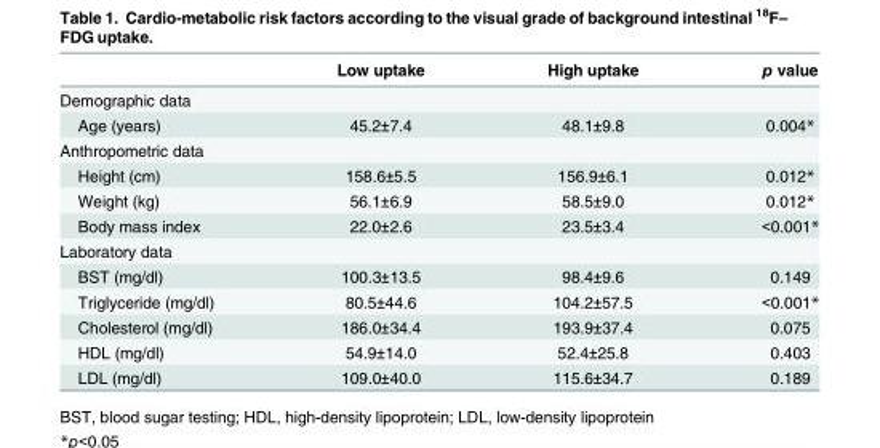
<table><thead><tr><td></td><td>Low uptake</td><td>High uptake</td><td>p value</td></tr></thead><tbody><tr><td colspan="4">Demographic data</td></tr><tr><td>Age (years)</td><td>45.2±7.4</td><td>48.1±9.8</td><td>0.004*</td></tr><tr><td colspan="4">Anthropometric data</td></tr><tr><td>Height (cm)</td><td>158.6±5.5</td><td>156.9±6.1</td><td>0.012*</td></tr><tr><td>Weight (kg)</td><td>56.1±6.9</td><td>58.5±9.0</td><td>0.012*</td></tr><tr><td>Body mass index</td><td>22.0±2.6</td><td>23.5±3.4</td><td>&lt;0.001*</td></tr><tr><td colspan="4">Laboratory data</td></tr><tr><td>BST (mg/dl)</td><td>100.3±13.5</td><td>98.4±9.6</td><td>0.149</td></tr><tr><td>Triglyceride (mg/dl)</td><td>80.5±44.6</td><td>104.2±57.5</td><td>&lt;0.001*</td></tr><tr><td>Cholesterol (mg/dl)</td><td>186.0±34.4</td><td>193.9±37.4</td><td>0.075</td></tr><tr><td>HDL (mg/dl)</td><td>54.9±14.0</td><td>52.4±25.8</td><td>0.403</td></tr><tr><td>LDL (mg/dl)</td><td>109.0±40.0</td><td>115.6±34.7</td><td>0.189</td></tr></tbody></table>